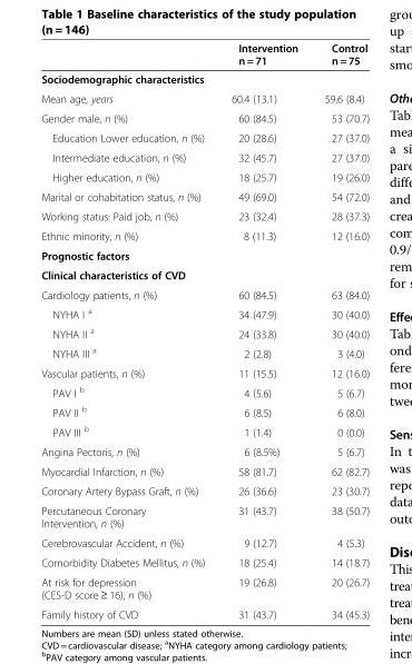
<table><thead><tr><td></td><td>Intervention n = 71</td><td>Control n = 75</td></tr></thead><tbody><tr><td colspan="3">Sociodemographic characteristics</td></tr><tr><td>Mean age, years</td><td>60.4 (13.1)</td><td>59.6 (8.4)</td></tr><tr><td>Gender male, n (%)</td><td>60 (84.5)</td><td>53 (70.7)</td></tr><tr><td>Education Lower education, n (%)</td><td>20 (28.6)</td><td>27 (37.0)</td></tr><tr><td>Intermediate education, n (%)</td><td>32 (45.7)</td><td>27 (37.0)</td></tr><tr><td>Higher education, n (%)</td><td>18 (25.7)</td><td>19 (26.0)</td></tr><tr><td>Marital or cohabitation status, n (%)</td><td>49 (69.0)</td><td>54 (72.0)</td></tr><tr><td>Working status: Paid job, n (%)</td><td>23 (32.4)</td><td>28 (37.3)</td></tr><tr><td>Ethnic minority, n (%)</td><td>8 (11.3)</td><td>12 (16.0)</td></tr><tr><td colspan="3">Prognostic factors</td></tr><tr><td colspan="3">Clinical characteristics of CVD</td></tr><tr><td>Cardiology patients, n (%)</td><td>60 (84.5)</td><td>63 (84.0)</td></tr><tr><td>NYHA I <sup>a</sup></td><td>34 (47.9)</td><td>30 (40.0)</td></tr><tr><td>NYHA II <sup>a</sup></td><td>24 (33.8)</td><td>30 (40.0)</td></tr><tr><td>NYHA III <sup>a</sup></td><td>2 (2.8)</td><td>3 (4.0)</td></tr><tr><td>Vascular patients, n (%)</td><td>11 (15.5)</td><td>12 (16.0)</td></tr><tr><td>PAV I <sup>b</sup></td><td>4 (5.6)</td><td>5 (6.7)</td></tr><tr><td>PAV II <sup>b</sup></td><td>6 (8.5)</td><td>6 (8.0)</td></tr><tr><td>PAV III <sup>b</sup></td><td>1 (1.4)</td><td>0 (0.0)</td></tr><tr><td>Angina Pectoris, n (%)</td><td>6 (8.5%)</td><td>5 (6.7)</td></tr><tr><td>Myocardial Infarction, n (%)</td><td>58 (81.7)</td><td>62 (82.7)</td></tr><tr><td>Coronary Artery Bypass Graft, n (%)</td><td>26 (36.6)</td><td>23 (30.7)</td></tr><tr><td>Percutaneous Coronary Intervention, n (%)</td><td>31 (43.7)</td><td>38 (50.7)</td></tr><tr><td>Cerebrovascular Accident, n (%)</td><td>9 (12.7)</td><td>4 (5.3)</td></tr><tr><td>Comorbidity Diabetes Mellitus, n (%)</td><td>18 (25.4)</td><td>14 (18.7)</td></tr><tr><td>At risk for depression (CES-D score ≥ 16), n (%)</td><td>19 (26.8)</td><td>20 (26.7)</td></tr><tr><td>Family history of CVD</td><td>31 (43.7)</td><td>34 (45.3)</td></tr></tbody></table>